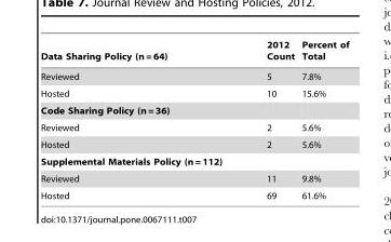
<table><thead><tr><td>Data Sharing Policy (n = 64)</td><td>2012 Count</td><td>Percent of Total</td></tr></thead><tbody><tr><td>Reviewed</td><td>5</td><td>7.8%</td></tr><tr><td>Hosted</td><td>10</td><td>15.6%</td></tr><tr><td colspan="3">Code Sharing Policy (n = 36)</td></tr><tr><td>Reviewed</td><td>2</td><td>5.6%</td></tr><tr><td>Hosted</td><td>2</td><td>5.6%</td></tr><tr><td colspan="3">Supplemental Materials Policy (n = 112)</td></tr><tr><td>Reviewed</td><td>11</td><td>9.8%</td></tr><tr><td>Hosted</td><td>69</td><td>61.6%</td></tr></tbody></table>